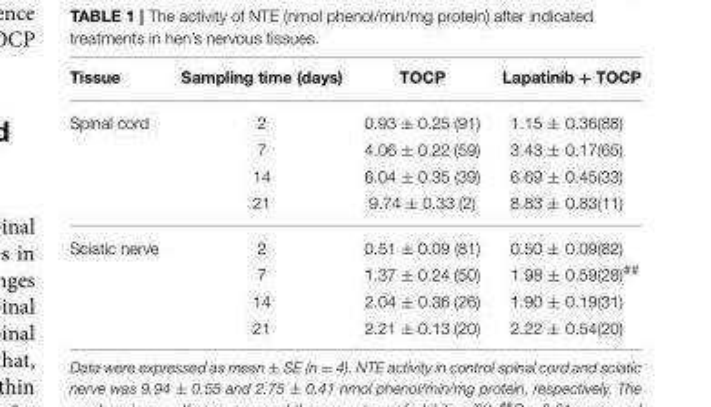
<table><thead><tr><td>Tissue</td><td>Sampling time (days)</td><td>TOCP</td><td>Lapatinib + TOCP</td></tr></thead><tbody><tr><td rowspan="4">Spinal cord</td><td>2</td><td>0.93 ± 0.25 (91)</td><td>1.15 ± 0.36(88)</td></tr><tr><td>7</td><td>4.06 ± 0.22 (59)</td><td>3.43 ± 0.17(65)</td></tr><tr><td>14</td><td>6.04 ± 0.35 (39)</td><td>6.69 ± 0.45(33)</td></tr><tr><td>21</td><td>9.74 ± 0.33 (2)</td><td>8.83 ± 0.83(11)</td></tr><tr><td rowspan="4">Sciatic nerve</td><td>2</td><td>0.51 ± 0.09 (81)</td><td>0.50 ± 0.09(82)</td></tr><tr><td>7</td><td>1.37 ± 0.24 (50)</td><td>1.98 ± 0.59(28)<sup>##</sup></td></tr><tr><td>14</td><td>2.04 ± 0.36 (26)</td><td>1.90 ± 0.19(31)</td></tr><tr><td>21</td><td>2.21 ± 0.13 (20)</td><td>2.22 ± 0.54(20)</td></tr></tbody></table>